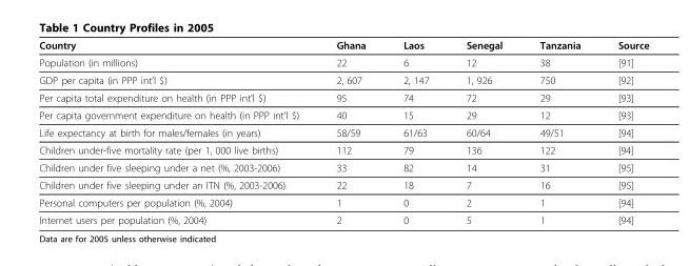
<table><thead><tr><td>Country</td><td>Ghana</td><td>Laos</td><td>Senegal</td><td>Tanzania</td><td>Source</td></tr></thead><tbody><tr><td>Population (in millions)</td><td>22</td><td>6</td><td>12</td><td>38</td><td>[91]</td></tr><tr><td>GDP per capita (in PPP int’l $)</td><td>2, 607</td><td>2, 147</td><td>1, 926</td><td>750</td><td>[92]</td></tr><tr><td>Per capita total expenditure on health (in PPP int’l $)</td><td>95</td><td>74</td><td>72</td><td>29</td><td>[93]</td></tr><tr><td>Per capita government expenditure on health (in PPP int’l $)</td><td>40</td><td>15</td><td>29</td><td>12</td><td>[93]</td></tr><tr><td>Life expectancy at birth for males/females (in years)</td><td>58/59</td><td>61/63</td><td>60/64</td><td>49/51</td><td>[94]</td></tr><tr><td>Children under-five mortality rate (per 1, 000 live births)</td><td>112</td><td>79</td><td>136</td><td>122</td><td>[94]</td></tr><tr><td>Children under five sleeping under a net (%, 2003-2006)</td><td>33</td><td>82</td><td>14</td><td>31</td><td>[95]</td></tr><tr><td>Children under five sleeping under an ITN (%, 2003-2006)</td><td>22</td><td>18</td><td>7</td><td>16</td><td>[95]</td></tr><tr><td>Personal computers per population (%, 2004)</td><td>1</td><td>0</td><td>2</td><td>1</td><td>[94]</td></tr><tr><td>Internet users per population (%, 2004)</td><td>2</td><td>0</td><td>5</td><td>1</td><td>[94]</td></tr></tbody></table>